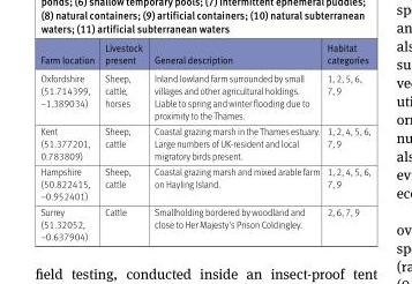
<table><thead><tr><td>Farm location</td><td>Livestock present</td><td>General description</td><td>Habitat categories</td></tr></thead><tbody><tr><td>Oxfordshire (51.714399, −1.389034)</td><td>Sheep, cattle, horses</td><td>Inland lowland farm surrounded by small villages and other agricultural holdings. Liable to spring and winter flooding due to proximity to the Thames.</td><td>1, 2, 5, 6, 7, 9</td></tr><tr><td>Kent (51.377201, 0.783809)</td><td>Sheep, cattle</td><td>Coastal grazing marsh in the Thames estuary. Large numbers of UK-resident and local migratory birds present.</td><td>1, 2, 4, 5, 6, 7, 9</td></tr><tr><td>Hampshire (50.822415, −0.952401)</td><td>Sheep, cattle</td><td>Coastal grazing marsh and mixed arable farm on Hayling Island.</td><td>1, 2, 4, 5, 6, 7, 9</td></tr><tr><td>Surrey (51.32052, −0.637904)</td><td>Cattle</td><td>Smallholding bordered by woodland and close to Her Majesty&#x27;s Prison Coldingley.</td><td>2, 6, 7, 9</td></tr></tbody></table>